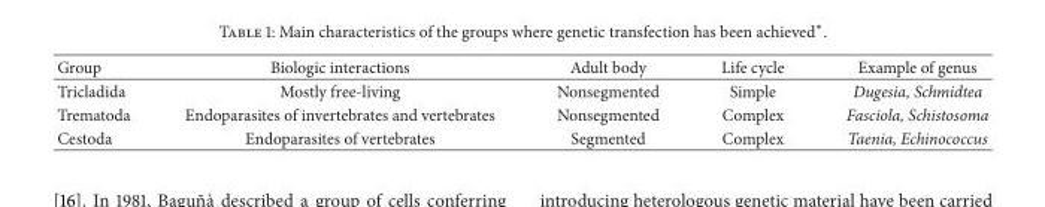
<table><thead><tr><td>Group</td><td>Biologic interactions</td><td>Adult body</td><td>Life cycle</td><td>Example of genus</td></tr></thead><tbody><tr><td>Tricladida</td><td>Mostly free-living</td><td>Nonsegmented</td><td>Simple</td><td>Dugesia, Schmidtea</td></tr><tr><td>Trematoda</td><td>Endoparasites of invertebrates and vertebrates</td><td>Nonsegmented</td><td>Complex</td><td>Fasciola, Schistosoma</td></tr><tr><td>Cestoda</td><td>Endoparasites of vertebrates</td><td>Segmented</td><td>Complex</td><td>Taenia, Echinococcus</td></tr></tbody></table>